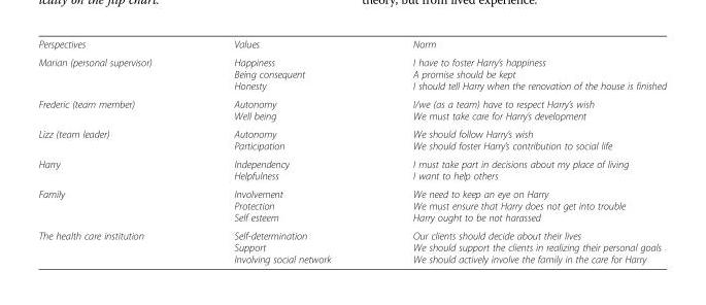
<table><tbody><tr><td>Perspectives</td><td>Values</td><td>Norm</td></tr><tr><td>Marian (personal supervisor)</td><td>Happiness Being consequent Honesty</td><td>I have to foster Harry’s happiness A promise should be kept I should tell Harry when the renovation of the house is finished</td></tr><tr><td>Frederic (team member)</td><td>Autonomy Well being</td><td>I/we (as a team) have to respect Harry’s wish We must take care for Harry’s development</td></tr><tr><td>Lizz (team leader)</td><td>Autonomy Participation</td><td>We should follow Harry’s wish We should foster Harry’s contribution to social life</td></tr><tr><td>Harry</td><td>Independency Helpfulness</td><td>I must take part in decisions about my place of living I want to help others</td></tr><tr><td>Family</td><td>Involvement Protection Self esteem</td><td>We need to keep an eye on Harry We must ensure that Harry does not get into trouble Harry ought to be not harassed</td></tr><tr><td>The health care institution</td><td>Self-determination Support Involving social network</td><td>Our clients should decide about their lives We should support the clients in realizing their personal goals We should actively involve the family in the care for Harry</td></tr></tbody></table>